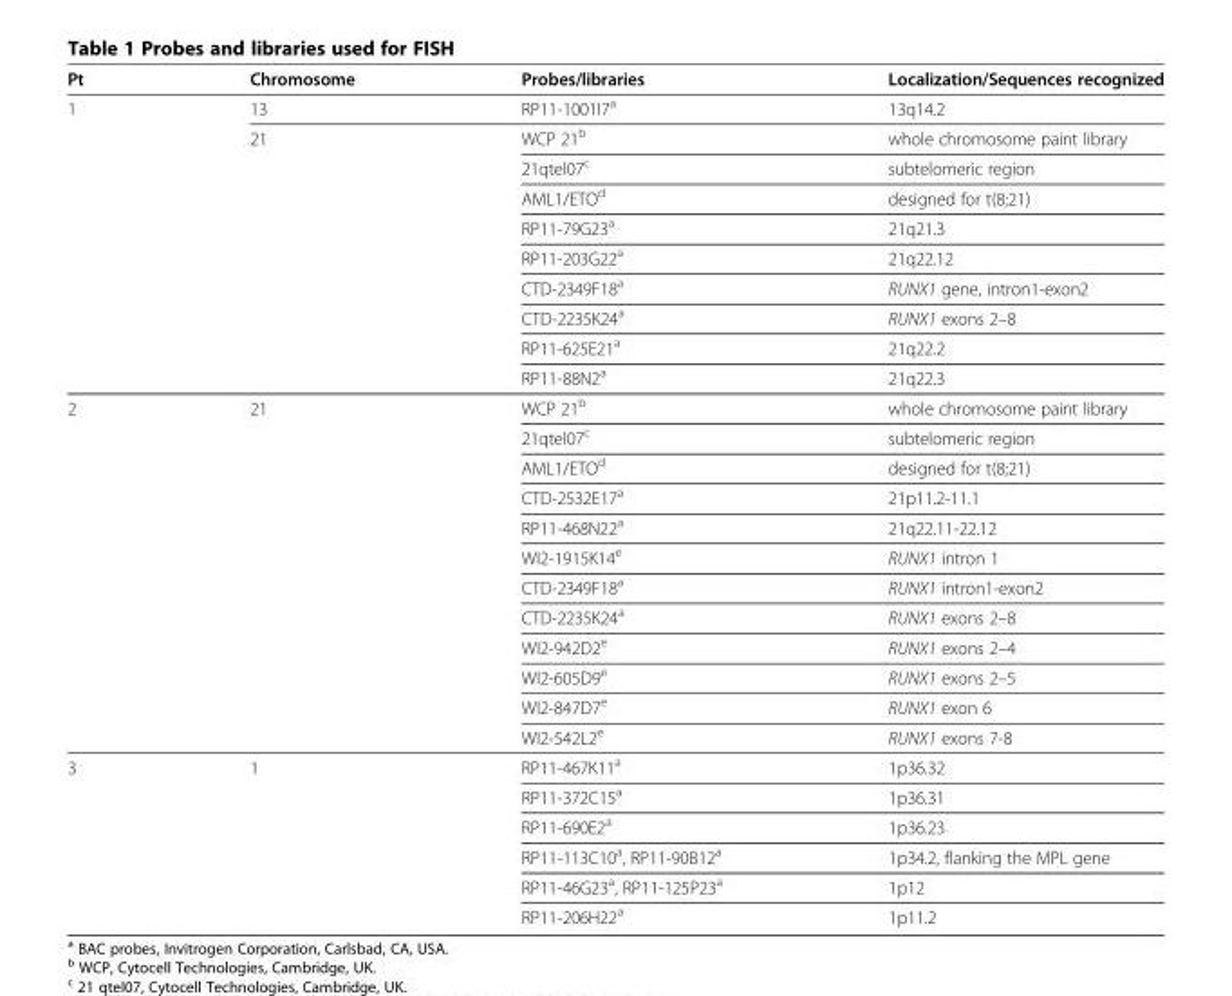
<table><thead><tr><td>Pt</td><td>Chromosome</td><td>Probes/libraries</td><td>Localization/Sequences recognized</td></tr></thead><tbody><tr><td rowspan="10">1</td><td>13</td><td>RP11-1001I7<sup>a</sup></td><td>13q14.2</td></tr><tr><td>21</td><td>WCP 21<sup>b</sup></td><td>whole chromosome paint library</td></tr><tr><td></td><td>21qtel07<sup>c</sup></td><td>subtelomeric region</td></tr><tr><td></td><td>AML1/ETO<sup>d</sup></td><td>designed for t(8;21)</td></tr><tr><td></td><td>RP11-79G23<sup>a</sup></td><td>21q21.3</td></tr><tr><td></td><td>RP11-203G22<sup>a</sup></td><td>21q22.12</td></tr><tr><td></td><td>CTD-2349F18<sup>a</sup></td><td>RUNX1 gene, intron1-exon2</td></tr><tr><td></td><td>CTD-2235K24<sup>a</sup></td><td>RUNX1 exons 2–8</td></tr><tr><td></td><td>RP11-625E21<sup>a</sup></td><td>21q22.2</td></tr><tr><td></td><td>RP11-88N2<sup>a</sup></td><td>21q22.3</td></tr><tr><td rowspan="12">2</td><td>21</td><td>WCP 21<sup>b</sup></td><td>whole chromosome paint library</td></tr><tr><td></td><td>21qtel07<sup>c</sup></td><td>subtelomeric region</td></tr><tr><td></td><td>AML1/ETO<sup>d</sup></td><td>designed for t(8;21)</td></tr><tr><td></td><td>CTD-2532E17<sup>a</sup></td><td>21p11.2-11.1</td></tr><tr><td></td><td>RP11-468N22<sup>a</sup></td><td>21q22.11-22.12</td></tr><tr><td></td><td>WI2-1915K14<sup>e</sup></td><td>RUNX1 intron 1</td></tr><tr><td></td><td>CTD-2349F18<sup>a</sup></td><td>RUNX1 intron1-exon2</td></tr><tr><td></td><td>CTD-2235K24<sup>a</sup></td><td>RUNX1 exons 2–8</td></tr><tr><td></td><td>WI2-942D2<sup>e</sup></td><td>RUNX1 exons 2–4</td></tr><tr><td></td><td>WI2-605D9<sup>e</sup></td><td>RUNX1 exons 2–5</td></tr><tr><td></td><td>WI2-847D7<sup>e</sup></td><td>RUNX1 exon 6</td></tr><tr><td></td><td>WI2-542L2<sup>e</sup></td><td>RUNX1 exons 7-8</td></tr><tr><td rowspan="6">3</td><td>1</td><td>RP11-467K11<sup>a</sup></td><td>1p36.32</td></tr><tr><td></td><td>RP11-372C15<sup>a</sup></td><td>1p36.31</td></tr><tr><td></td><td>RP11-690E2<sup>a</sup></td><td>1p36.23</td></tr><tr><td></td><td>RP11-113C10<sup>a</sup>, RP11-90B12<sup>a</sup></td><td>1p34.2, flanking the MPL gene</td></tr><tr><td></td><td>RP11-46G23<sup>a</sup>, RP11-125P23<sup>a</sup></td><td>1p12</td></tr><tr><td></td><td>RP11-206H22<sup>a</sup></td><td>1p11.2</td></tr></tbody></table>